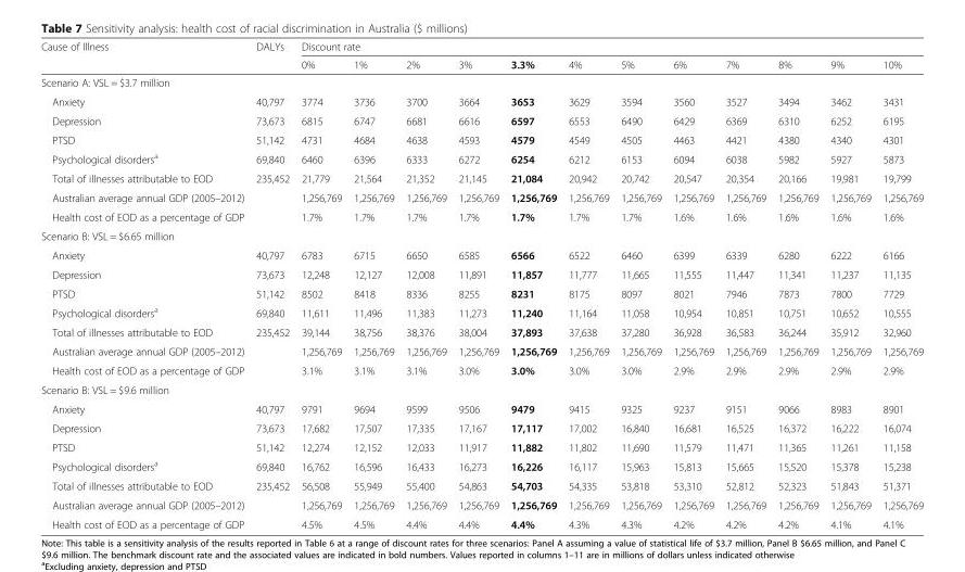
<table><thead><tr><td rowspan="2">Cause of Illness</td><td rowspan="2">DALYs</td><td colspan="12">Discount rate</td></tr><tr><td>0%</td><td>1%</td><td>2%</td><td>3%</td><td>3.3%</td><td>4%</td><td>5%</td><td>6%</td><td>7%</td><td>8%</td><td>9%</td><td>10%</td></tr></thead><tbody><tr><td colspan="14">Scenario A: VSL = $3.7 million</td></tr><tr><td>Anxiety</td><td>40,797</td><td>3774</td><td>3736</td><td>3700</td><td>3664</td><td>3653</td><td>3629</td><td>3594</td><td>3560</td><td>3527</td><td>3494</td><td>3462</td><td>3431</td></tr><tr><td>Depression</td><td>73,673</td><td>6815</td><td>6747</td><td>6681</td><td>6616</td><td>6597</td><td>6553</td><td>6490</td><td>6429</td><td>6369</td><td>6310</td><td>6252</td><td>6195</td></tr><tr><td>PTSD</td><td>51,142</td><td>4731</td><td>4684</td><td>4638</td><td>4593</td><td>4579</td><td>4549</td><td>4505</td><td>4463</td><td>4421</td><td>4380</td><td>4340</td><td>4301</td></tr><tr><td>Psychological disorders<sup>a</sup></td><td>69,840</td><td>6460</td><td>6396</td><td>6333</td><td>6272</td><td>6254</td><td>6212</td><td>6153</td><td>6094</td><td>6038</td><td>5982</td><td>5927</td><td>5873</td></tr><tr><td>Total of illnesses attributable to EOD</td><td>235,452</td><td>21,779</td><td>21,564</td><td>21,352</td><td>21,145</td><td>21,084</td><td>20,942</td><td>20,742</td><td>20,547</td><td>20,354</td><td>20,166</td><td>19,981</td><td>19,799</td></tr><tr><td>Australian average annual GDP (2005–2012)</td><td></td><td>1,256,769</td><td>1,256,769</td><td>1,256,769</td><td>1,256,769</td><td>1,256,769</td><td>1,256,769</td><td>1,256,769</td><td>1,256,769</td><td>1,256,769</td><td>1,256,769</td><td>1,256,769</td><td>1,256,769</td></tr><tr><td>Health cost of EOD as a percentage of GDP</td><td></td><td>1.7%</td><td>1.7%</td><td>1.7%</td><td>1.7%</td><td>1.7%</td><td>1.7%</td><td>1.7%</td><td>1.6%</td><td>1.6%</td><td>1.6%</td><td>1.6%</td><td>1.6%</td></tr><tr><td colspan="14">Scenario B: VSL = $6.65 million</td></tr><tr><td>Anxiety</td><td>40,797</td><td>6783</td><td>6715</td><td>6650</td><td>6585</td><td>6566</td><td>6522</td><td>6460</td><td>6399</td><td>6339</td><td>6280</td><td>6222</td><td>6166</td></tr><tr><td>Depression</td><td>73,673</td><td>12,248</td><td>12,127</td><td>12,008</td><td>11,891</td><td>11,857</td><td>11,777</td><td>11,665</td><td>11,555</td><td>11,447</td><td>11,341</td><td>11,237</td><td>11,135</td></tr><tr><td>PTSD</td><td>51,142</td><td>8502</td><td>8418</td><td>8336</td><td>8255</td><td>8231</td><td>8175</td><td>8097</td><td>8021</td><td>7946</td><td>7873</td><td>7800</td><td>7729</td></tr><tr><td>Psychological disorders<sup>a</sup></td><td>69,840</td><td>11,611</td><td>11,496</td><td>11,383</td><td>11,273</td><td>11,240</td><td>11,164</td><td>11,058</td><td>10,954</td><td>10,851</td><td>10,751</td><td>10,652</td><td>10,555</td></tr><tr><td>Total of illnesses attributable to EOD</td><td>235,452</td><td>39,144</td><td>38,756</td><td>38,376</td><td>38,004</td><td>37,893</td><td>37,638</td><td>37,280</td><td>36,928</td><td>36,583</td><td>36,244</td><td>35,912</td><td>32,960</td></tr><tr><td>Australian average annual GDP (2005–2012)</td><td></td><td>1,256,769</td><td>1,256,769</td><td>1,256,769</td><td>1,256,769</td><td>1,256,769</td><td>1,256,769</td><td>1,256,769</td><td>1,256,769</td><td>1,256,769</td><td>1,256,769</td><td>1,256,769</td><td>1,256,769</td></tr><tr><td>Health cost of EOD as a percentage of GDP</td><td></td><td>3.1%</td><td>3.1%</td><td>3.1%</td><td>3.0%</td><td>3.0%</td><td>3.0%</td><td>3.0%</td><td>2.9%</td><td>2.9%</td><td>2.9%</td><td>2.9%</td><td>2.9%</td></tr><tr><td colspan="14">Scenario B: VSL = $9.6 million</td></tr><tr><td>Anxiety</td><td>40,797</td><td>9791</td><td>9694</td><td>9599</td><td>9506</td><td>9479</td><td>9415</td><td>9325</td><td>9237</td><td>9151</td><td>9066</td><td>8983</td><td>8901</td></tr><tr><td>Depression</td><td>73,673</td><td>17,682</td><td>17,507</td><td>17,335</td><td>17,167</td><td>17,117</td><td>17,002</td><td>16,840</td><td>16,681</td><td>16,525</td><td>16,372</td><td>16,222</td><td>16,074</td></tr><tr><td>PTSD</td><td>51,142</td><td>12,274</td><td>12,152</td><td>12,033</td><td>11,917</td><td>11,882</td><td>11,802</td><td>11,690</td><td>11,579</td><td>11,471</td><td>11,365</td><td>11,261</td><td>11,158</td></tr><tr><td>Psychological disorders<sup>a</sup></td><td>69,840</td><td>16,762</td><td>16,596</td><td>16,433</td><td>16,273</td><td>16,226</td><td>16,117</td><td>15,963</td><td>15,813</td><td>15,665</td><td>15,520</td><td>15,378</td><td>15,238</td></tr><tr><td>Total of illnesses attributable to EOD</td><td>235,452</td><td>56,508</td><td>55,949</td><td>55,400</td><td>54,863</td><td>54,703</td><td>54,335</td><td>53,818</td><td>53,310</td><td>52,812</td><td>52,323</td><td>51,843</td><td>51,371</td></tr><tr><td>Australian average annual GDP (2005–2012)</td><td></td><td>1,256,769</td><td>1,256,769</td><td>1,256,769</td><td>1,256,769</td><td>1,256,769</td><td>1,256,769</td><td>1,256,769</td><td>1,256,769</td><td>1,256,769</td><td>1,256,769</td><td>1,256,769</td><td>1,256,769</td></tr><tr><td>Health cost of EOD as a percentage of GDP</td><td></td><td>4.5%</td><td>4.5%</td><td>4.4%</td><td>4.4%</td><td>4.4%</td><td>4.3%</td><td>4.3%</td><td>4.2%</td><td>4.2%</td><td>4.2%</td><td>4.1%</td><td>4.1%</td></tr></tbody></table>